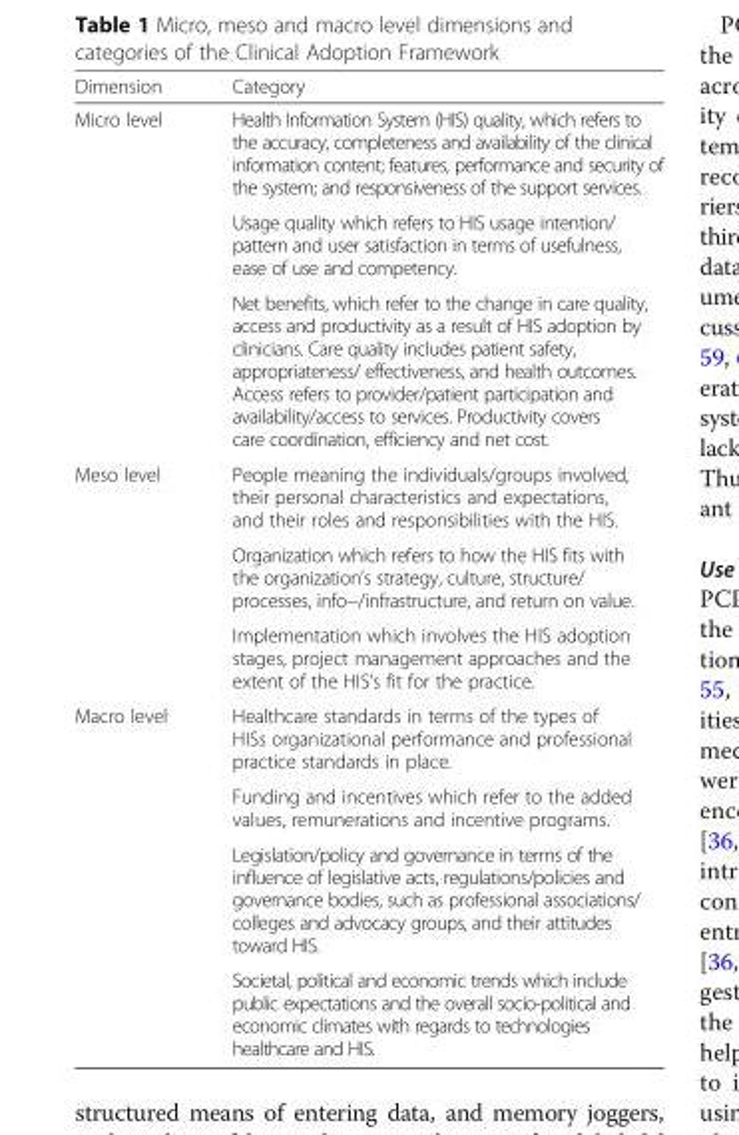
<table><thead><tr><td>Dimension</td><td>Category</td></tr></thead><tbody><tr><td rowspan="3">Micro level</td><td>Health Information System (HIS) quality, which refers to the accuracy, completeness and availability of the clinical information content; features, performance and security of the system; and responsiveness of the support services.</td></tr><tr><td>Usage quality which refers to HIS usage intention/ pattern and user satisfaction in terms of usefulness, ease of use and competency.</td></tr><tr><td>Net benefits, which refer to the change in care quality, access and productivity as a result of HIS adoption by clinicians. Care quality includes patient safety, appropriateness/ effectiveness, and health outcomes. Access refers to provider/patient participation and availability/access to services. Productivity covers care coordination, efficiency and net cost.</td></tr><tr><td rowspan="3">Meso level</td><td>People meaning the individuals/groups involved, their personal characteristics and expectations, and their roles and responsibilities with the HIS.</td></tr><tr><td>Organization which refers to how the HIS fits with the organization’s strategy, culture, structure/ processes, info−/infrastructure, and return on value.</td></tr><tr><td>Implementation which involves the HIS adoption stages, project management approaches and the extent of the HIS’s fit for the practice.</td></tr><tr><td rowspan="4">Macro level</td><td>Healthcare standards in terms of the types of HISs organizational performance and professional practice standards in place.</td></tr><tr><td>Funding and incentives which refer to the added values, remunerations and incentive programs.</td></tr><tr><td>Legislation/policy and governance in terms of the influence of legislative acts, regulations/policies and governance bodies, such as professional associations/ colleges and advocacy groups, and their attitudes toward HIS.</td></tr><tr><td>Societal, political and economic trends which include public expectations and the overall socio-political and economic climates with regards to technologies healthcare and HIS.</td></tr></tbody></table>